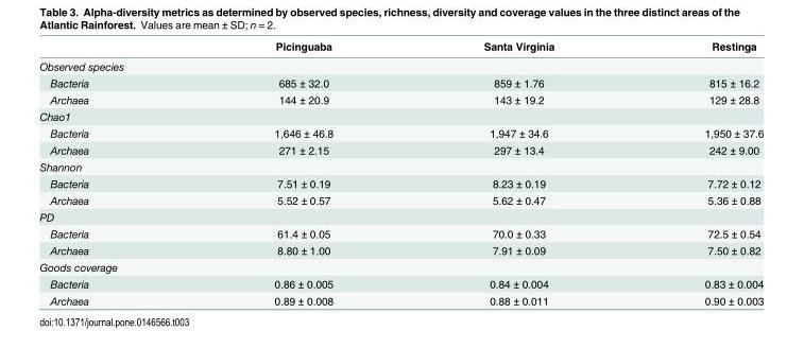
<table><thead><tr><td></td><td>Picinguaba</td><td>Santa Virginia</td><td>Restinga</td></tr></thead><tbody><tr><td colspan="4">Observed species</td></tr><tr><td>Bacteria</td><td>685 ± 32.0</td><td>859 ± 1.76</td><td>815 ± 16.2</td></tr><tr><td>Archaea</td><td>144 ± 20.9</td><td>143 ± 19.2</td><td>129 ± 28.8</td></tr><tr><td colspan="4">Chao1</td></tr><tr><td>Bacteria</td><td>1,646 ± 46.8</td><td>1,947 ± 34.6</td><td>1,950 ± 37.6</td></tr><tr><td>Archaea</td><td>271 ± 2.15</td><td>297 ± 13.4</td><td>242 ± 9.00</td></tr><tr><td colspan="4">Shannon</td></tr><tr><td>Bacteria</td><td>7.51 ± 0.19</td><td>8.23 ± 0.19</td><td>7.72 ± 0.12</td></tr><tr><td>Archaea</td><td>5.52 ± 0.57</td><td>5.62 ± 0.47</td><td>5.36 ± 0.88</td></tr><tr><td colspan="4">PD</td></tr><tr><td>Bacteria</td><td>61.4 ± 0.05</td><td>70.0 ± 0.33</td><td>72.5 ± 0.54</td></tr><tr><td>Archaea</td><td>8.80 ± 1.00</td><td>7.91 ± 0.09</td><td>7.50 ± 0.82</td></tr><tr><td colspan="4">Goods coverage</td></tr><tr><td>Bacteria</td><td>0.86 ± 0.005</td><td>0.84 ± 0.004</td><td>0.83 ± 0.004</td></tr><tr><td>Archaea</td><td>0.89 ± 0.008</td><td>0.88 ± 0.011</td><td>0.90 ± 0.003</td></tr></tbody></table>